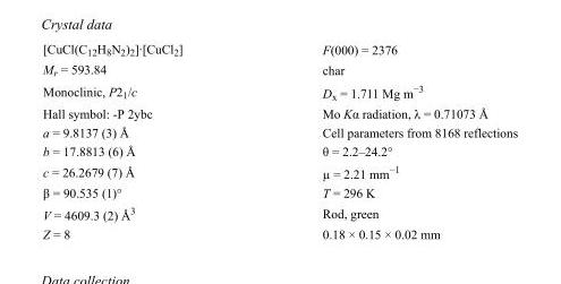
<table><tbody><tr><td>[CuCl(C<sub>12</sub>H<sub>8</sub>N<sub>2</sub>)<sub>2</sub>]·[CuCl<sub>2</sub>]</td><td>F(000) = 2376</td></tr><tr><td>M<sub>r</sub> = 593.84</td><td>char</td></tr><tr><td>Monoclinic, P2<sub>1</sub>/c</td><td>D<sub>x</sub> = 1.711 Mg m<sup>−3</sup></td></tr><tr><td>Hall symbol: -P 2ybc</td><td>Mo Kα radiation, λ = 0.71073 Å</td></tr><tr><td>a = 9.8137 (3) Å</td><td>Cell parameters from 8168 reflections</td></tr><tr><td>b = 17.8813 (6) Å</td><td>θ = 2.2–24.2°</td></tr><tr><td>c = 26.2679 (7) Å</td><td>µ = 2.21 mm<sup>−1</sup></td></tr><tr><td>β = 90.535 (1)°</td><td>T = 296 K</td></tr><tr><td>V = 4609.3 (2) Å<sup>3</sup></td><td>Rod, green</td></tr><tr><td>Z = 8</td><td>0.18 × 0.15 × 0.02 mm</td></tr></tbody></table>